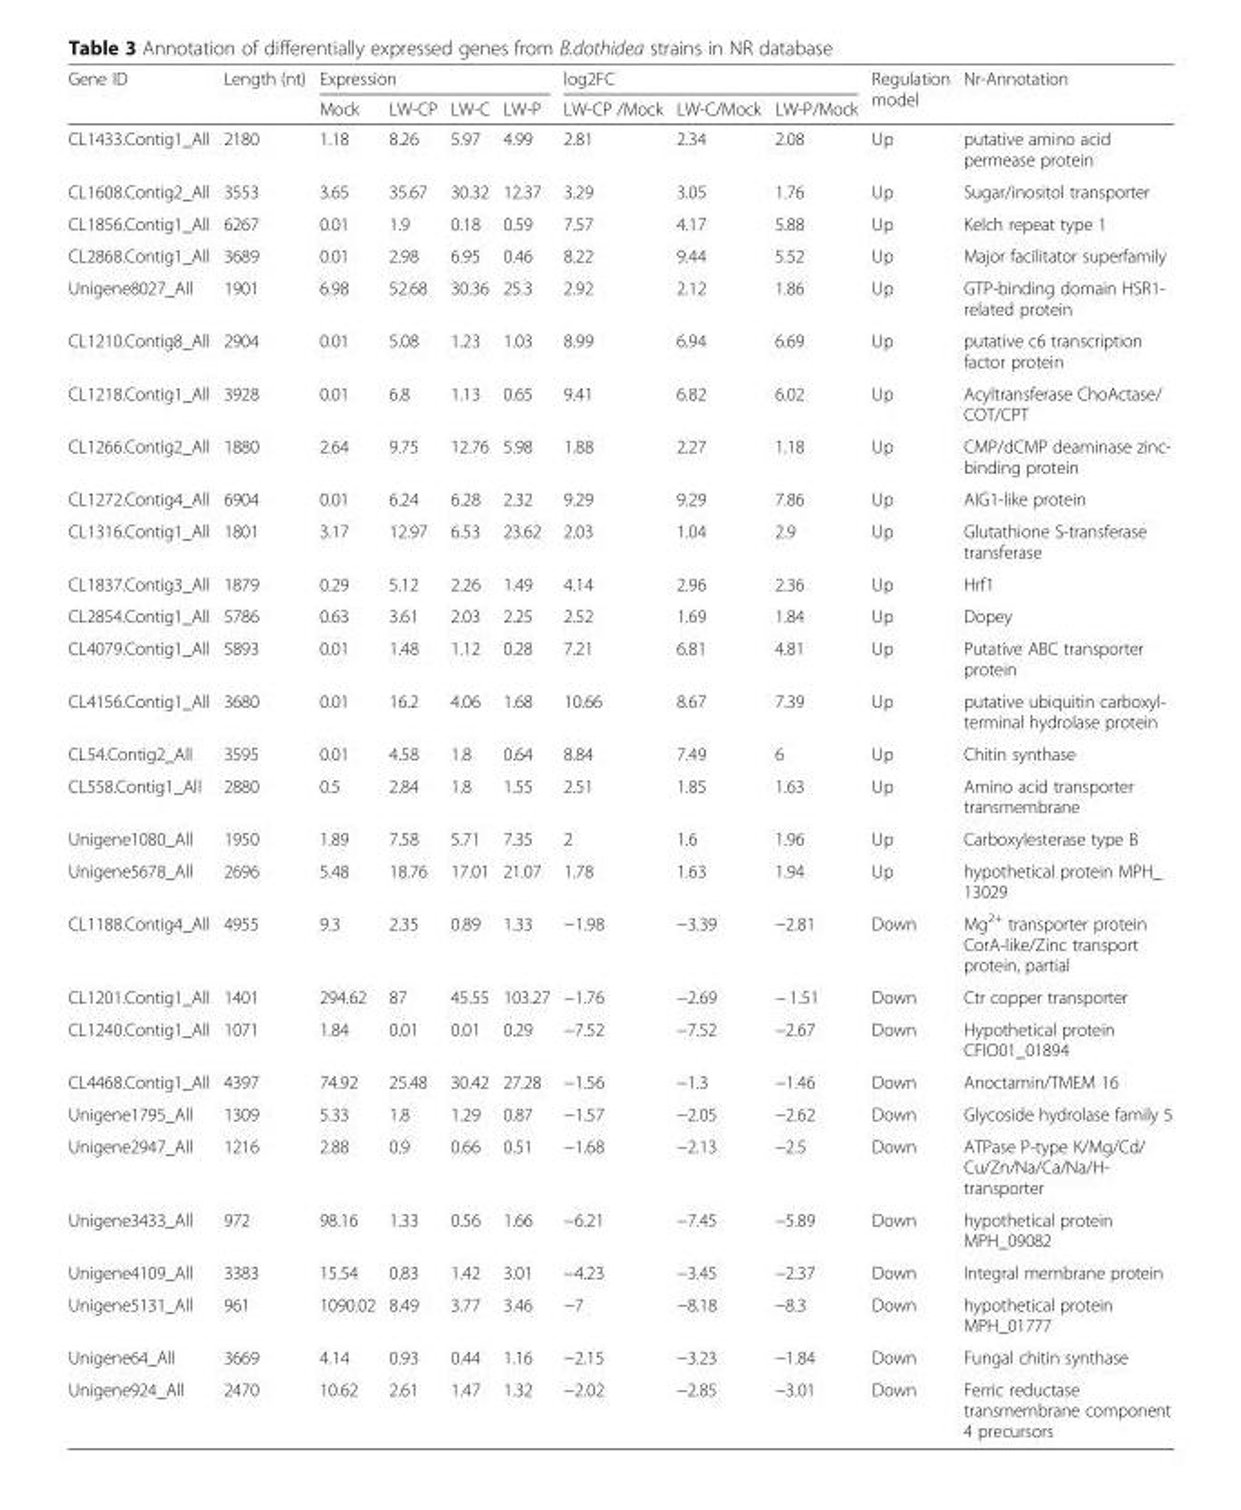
<table><thead><tr><td rowspan="2">Gene ID</td><td rowspan="2">Length (nt)</td><td colspan="4">Expression</td><td colspan="3">log2FC</td><td rowspan="2">Regulation model</td><td rowspan="2">Nr-Annotation</td></tr><tr><td>Mock</td><td>LW-CP</td><td>LW-C</td><td>LW-P</td><td>LW-CP /Mock</td><td>LW-C/Mock</td><td>LW-P/Mock</td></tr></thead><tbody><tr><td>CL1433.Contig1_All</td><td>2180</td><td>1.18</td><td>8.26</td><td>5.97</td><td>4.99</td><td>2.81</td><td>2.34</td><td>2.08</td><td>Up</td><td>putative amino acid permease protein</td></tr><tr><td>CL1608.Contig2_All</td><td>3553</td><td>3.65</td><td>35.67</td><td>30.32</td><td>12.37</td><td>3.29</td><td>3.05</td><td>1.76</td><td>Up</td><td>Sugar/inositol transporter</td></tr><tr><td>CL1856.Contig1_All</td><td>6267</td><td>0.01</td><td>1.9</td><td>0.18</td><td>0.59</td><td>7.57</td><td>4.17</td><td>5.88</td><td>Up</td><td>Kelch repeat type 1</td></tr><tr><td>CL2868.Contig1_All</td><td>3689</td><td>0.01</td><td>2.98</td><td>6.95</td><td>0.46</td><td>8.22</td><td>9.44</td><td>5.52</td><td>Up</td><td>Major facilitator superfamily</td></tr><tr><td>Unigene8027_All</td><td>1901</td><td>6.98</td><td>52.68</td><td>30.36</td><td>25.3</td><td>2.92</td><td>2.12</td><td>1.86</td><td>Up</td><td>GTP-binding domain HSR1- related protein</td></tr><tr><td>CL1210.Contig8_All</td><td>2904</td><td>0.01</td><td>5.08</td><td>1.23</td><td>1.03</td><td>8.99</td><td>6.94</td><td>6.69</td><td>Up</td><td>putative c6 transcription factor protein</td></tr><tr><td>CL1218.Contig1_All</td><td>3928</td><td>0.01</td><td>6.8</td><td>1.13</td><td>0.65</td><td>9.41</td><td>6.82</td><td>6.02</td><td>Up</td><td>Acyltransferase ChoActase/ COT/CPT</td></tr><tr><td>CL1266.Contig2_All</td><td>1880</td><td>2.64</td><td>9.75</td><td>12.76</td><td>5.98</td><td>1.88</td><td>2.27</td><td>1.18</td><td>Up</td><td>CMP/dCMP deaminase zinc- binding protein</td></tr><tr><td>CL1272.Contig4_All</td><td>6904</td><td>0.01</td><td>6.24</td><td>6.28</td><td>2.32</td><td>9.29</td><td>9.29</td><td>7.86</td><td>Up</td><td>AIG1-like protein</td></tr><tr><td>CL1316.Contig1_All</td><td>1801</td><td>3.17</td><td>12.97</td><td>6.53</td><td>23.62</td><td>2.03</td><td>1.04</td><td>2.9</td><td>Up</td><td>Glutathione S-transferase transferase</td></tr><tr><td>CL1837.Contig3_All</td><td>1879</td><td>0.29</td><td>5.12</td><td>2.26</td><td>1.49</td><td>4.14</td><td>2.96</td><td>2.36</td><td>Up</td><td>Hrf1</td></tr><tr><td>CL2854.Contig1_All</td><td>5786</td><td>0.63</td><td>3.61</td><td>2.03</td><td>2.25</td><td>2.52</td><td>1.69</td><td>1.84</td><td>Up</td><td>Dopey</td></tr><tr><td>CL4079.Contig1_All</td><td>5893</td><td>0.01</td><td>1.48</td><td>1.12</td><td>0.28</td><td>7.21</td><td>6.81</td><td>4.81</td><td>Up</td><td>Putative ABC transporter protein</td></tr><tr><td>CL4156.Contig1_All</td><td>3680</td><td>0.01</td><td>16.2</td><td>4.06</td><td>1.68</td><td>10.66</td><td>8.67</td><td>7.39</td><td>Up</td><td>putative ubiquitin carboxyl- terminal hydrolase protein</td></tr><tr><td>CL54.Contig2_All</td><td>3595</td><td>0.01</td><td>4.58</td><td>1.8</td><td>0.64</td><td>8.84</td><td>7.49</td><td>6</td><td>Up</td><td>Chitin synthase</td></tr><tr><td>CL558.Contig1_All</td><td>2880</td><td>0.5</td><td>2.84</td><td>1.8</td><td>1.55</td><td>2.51</td><td>1.85</td><td>1.63</td><td>Up</td><td>Amino acid transporter transmembrane</td></tr><tr><td>Unigene1080_All</td><td>1950</td><td>1.89</td><td>7.58</td><td>5.71</td><td>7.35</td><td>2</td><td>1.6</td><td>1.96</td><td>Up</td><td>Carboxylesterase type B</td></tr><tr><td>Unigene5678_All</td><td>2696</td><td>5.48</td><td>18.76</td><td>17.01</td><td>21.07</td><td>1.78</td><td>1.63</td><td>1.94</td><td>Up</td><td>hypothetical protein MPH_ 13029</td></tr><tr><td>CL1188.Contig4_All</td><td>4955</td><td>9.3</td><td>2.35</td><td>0.89</td><td>1.33</td><td>−1.98</td><td>−3.39</td><td>−2.81</td><td>Down</td><td>Mg<sup>2+</sup> transporter protein CorA-like/Zinc transport protein, partial</td></tr><tr><td>CL1201.Contig1_All</td><td>1401</td><td>294.62</td><td>87</td><td>45.55</td><td>103.27</td><td>−1.76</td><td>−2.69</td><td>− 1.51</td><td>Down</td><td>Ctr copper transporter</td></tr><tr><td>CL1240.Contig1_All</td><td>1071</td><td>1.84</td><td>0.01</td><td>0.01</td><td>0.29</td><td>−7.52</td><td>−7.52</td><td>−2.67</td><td>Down</td><td>Hypothetical protein CFIO01_01894</td></tr><tr><td>CL4468.Contig1_All</td><td>4397</td><td>74.92</td><td>25.48</td><td>30.42</td><td>27.28</td><td>−1.56</td><td>−1.3</td><td>−1.46</td><td>Down</td><td>Anoctamin/TMEM 16</td></tr><tr><td>Unigene1795_All</td><td>1309</td><td>5.33</td><td>1.8</td><td>1.29</td><td>0.87</td><td>−1.57</td><td>−2.05</td><td>−2.62</td><td>Down</td><td>Glycoside hydrolase family 5</td></tr><tr><td>Unigene2947_All</td><td>1216</td><td>2.88</td><td>0.9</td><td>0.66</td><td>0.51</td><td>−1.68</td><td>−2.13</td><td>−2.5</td><td>Down</td><td>ATPase P-type K/Mg/Cd/ Cu/Zn/Na/Ca/Na/H- transporter</td></tr><tr><td>Unigene3433_All</td><td>972</td><td>98.16</td><td>1.33</td><td>0.56</td><td>1.66</td><td>−6.21</td><td>−7.45</td><td>−5.89</td><td>Down</td><td>hypothetical protein MPH_09082</td></tr><tr><td>Unigene4109_All</td><td>3383</td><td>15.54</td><td>0.83</td><td>1.42</td><td>3.01</td><td>−4.23</td><td>−3.45</td><td>−2.37</td><td>Down</td><td>Integral membrane protein</td></tr><tr><td>Unigene5131_All</td><td>961</td><td>1090.02</td><td>8.49</td><td>3.77</td><td>3.46</td><td>−7</td><td>−8.18</td><td>−8.3</td><td>Down</td><td>hypothetical protein MPH_01777</td></tr><tr><td>Unigene64_All</td><td>3669</td><td>4.14</td><td>0.93</td><td>0.44</td><td>1.16</td><td>−2.15</td><td>−3.23</td><td>−1.84</td><td>Down</td><td>Fungal chitin synthase</td></tr><tr><td>Unigene924_All</td><td>2470</td><td>10.62</td><td>2.61</td><td>1.47</td><td>1.32</td><td>−2.02</td><td>−2.85</td><td>−3.01</td><td>Down</td><td>Ferric reductase transmembrane component 4 precursors</td></tr></tbody></table>